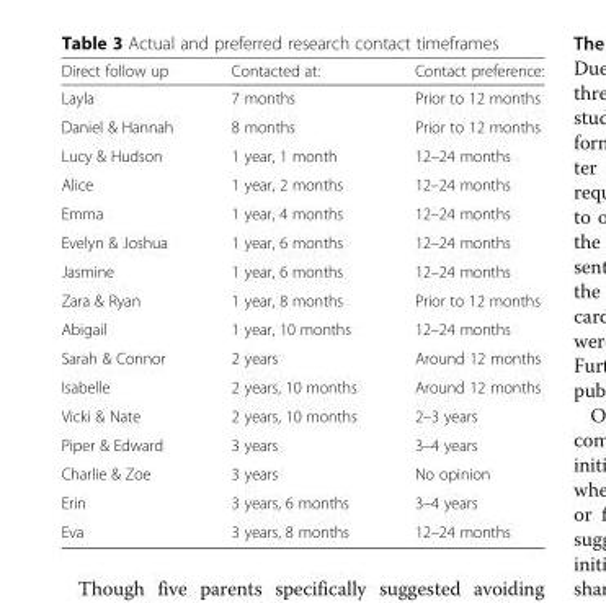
<table><thead><tr><td>Direct follow up</td><td>Contacted at:</td><td>Contact preference:</td></tr></thead><tbody><tr><td>Layla</td><td>7 months</td><td>Prior to 12 months</td></tr><tr><td>Daniel &amp; Hannah</td><td>8 months</td><td>Prior to 12 months</td></tr><tr><td>Lucy &amp; Hudson</td><td>1 year, 1 month</td><td>12–24 months</td></tr><tr><td>Alice</td><td>1 year, 2 months</td><td>12–24 months</td></tr><tr><td>Emma</td><td>1 year, 4 months</td><td>12–24 months</td></tr><tr><td>Evelyn &amp; Joshua</td><td>1 year, 6 months</td><td>12–24 months</td></tr><tr><td>Jasmine</td><td>1 year, 6 months</td><td>12–24 months</td></tr><tr><td>Zara &amp; Ryan</td><td>1 year, 8 months</td><td>Prior to 12 months</td></tr><tr><td>Abigail</td><td>1 year, 10 months</td><td>12–24 months</td></tr><tr><td>Sarah &amp; Connor</td><td>2 years</td><td>Around 12 months</td></tr><tr><td>Isabelle</td><td>2 years, 10 months</td><td>Around 12 months</td></tr><tr><td>Vicki &amp; Nate</td><td>2 years, 10 months</td><td>2–3 years</td></tr><tr><td>Piper &amp; Edward</td><td>3 years</td><td>3–4 years</td></tr><tr><td>Charlie &amp; Zoe</td><td>3 years</td><td>No opinion</td></tr><tr><td>Erin</td><td>3 years, 6 months</td><td>3–4 years</td></tr><tr><td>Eva</td><td>3 years, 8 months</td><td>12–24 months</td></tr></tbody></table>